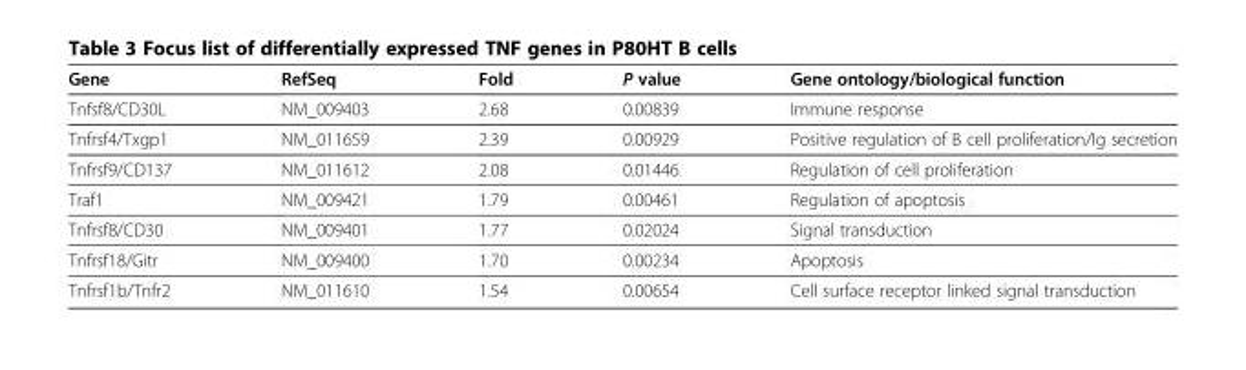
<table><thead><tr><td>Gene</td><td>RefSeq</td><td>Fold</td><td>P value</td><td>Gene ontology/biological function</td></tr></thead><tbody><tr><td>Tnfsf8/CD30L</td><td>NM_009403</td><td>2.68</td><td>0.00839</td><td>Immune response</td></tr><tr><td>Tnfrsf4/Txgp1</td><td>NM_011659</td><td>2.39</td><td>0.00929</td><td>Positive regulation of B cell proliferation/Ig secretion</td></tr><tr><td>Tnfrsf9/CD137</td><td>NM_011612</td><td>2.08</td><td>0.01446</td><td>Regulation of cell proliferation</td></tr><tr><td>Traf1</td><td>NM_009421</td><td>1.79</td><td>0.00461</td><td>Regulation of apoptosis</td></tr><tr><td>Tnfrsf8/CD30</td><td>NM_009401</td><td>1.77</td><td>0.02024</td><td>Signal transduction</td></tr><tr><td>Tnfrsf18/Gitr</td><td>NM_009400</td><td>1.70</td><td>0.00234</td><td>Apoptosis</td></tr><tr><td>Tnfrsf1b/Tnfr2</td><td>NM_011610</td><td>1.54</td><td>0.00654</td><td>Cell surface receptor linked signal transduction</td></tr></tbody></table>